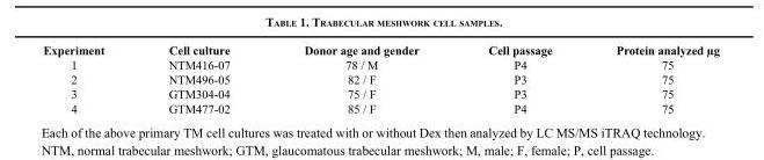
<table><thead><tr><td>Experiment</td><td>Cell culture</td><td>Donor age and gender</td><td>Cell passage</td><td>Protein analyzed µg</td></tr></thead><tbody><tr><td>1</td><td>NTM416-07</td><td>78 / M</td><td>P4</td><td>75</td></tr><tr><td>2</td><td>NTM496-05</td><td>82 / F</td><td>P3</td><td>75</td></tr><tr><td>3</td><td>GTM304-04</td><td>75 / F</td><td>P3</td><td>75</td></tr><tr><td>4</td><td>GTM477-02</td><td>85 / F</td><td>P4</td><td>75</td></tr></tbody></table>